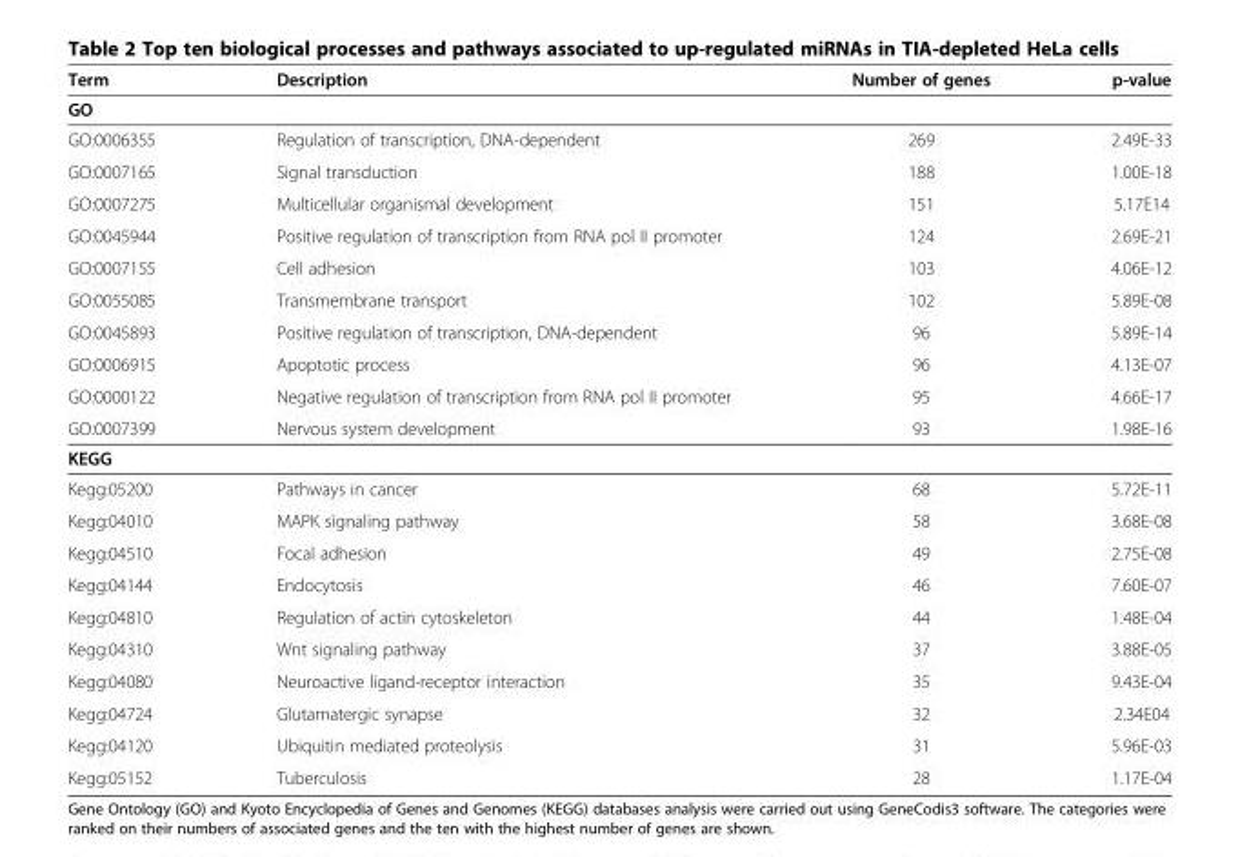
<table><thead><tr><td>Term</td><td>Description</td><td>Number of genes</td><td>p-value</td></tr></thead><tbody><tr><td colspan="4">GO</td></tr><tr><td>GO:0006355</td><td>Regulation of transcription, DNA-dependent</td><td>269</td><td>2.49E-33</td></tr><tr><td>GO:0007165</td><td>Signal transduction</td><td>188</td><td>1.00E-18</td></tr><tr><td>GO:0007275</td><td>Multicellular organismal development</td><td>151</td><td>5.17E14</td></tr><tr><td>GO:0045944</td><td>Positive regulation of transcription from RNA pol II promoter</td><td>124</td><td>2.69E-21</td></tr><tr><td>GO:0007155</td><td>Cell adhesion</td><td>103</td><td>4.06E-12</td></tr><tr><td>GO:0055085</td><td>Transmembrane transport</td><td>102</td><td>5.89E-08</td></tr><tr><td>GO:0045893</td><td>Positive regulation of transcription, DNA-dependent</td><td>96</td><td>5.89E-14</td></tr><tr><td>GO:0006915</td><td>Apoptotic process</td><td>96</td><td>4.13E-07</td></tr><tr><td>GO:0000122</td><td>Negative regulation of transcription from RNA pol II promoter</td><td>95</td><td>4.66E-17</td></tr><tr><td>GO:0007399</td><td>Nervous system development</td><td>93</td><td>1.98E-16</td></tr><tr><td colspan="4">KEGG</td></tr><tr><td>Kegg:05200</td><td>Pathways in cancer</td><td>68</td><td>5.72E-11</td></tr><tr><td>Kegg:04010</td><td>MAPK signaling pathway</td><td>58</td><td>3.68E-08</td></tr><tr><td>Kegg:04510</td><td>Focal adhesion</td><td>49</td><td>2.75E-08</td></tr><tr><td>Kegg:04144</td><td>Endocytosis</td><td>46</td><td>7.60E-07</td></tr><tr><td>Kegg:04810</td><td>Regulation of actin cytoskeleton</td><td>44</td><td>1.48E-04</td></tr><tr><td>Kegg:04310</td><td>Wnt signaling pathway</td><td>37</td><td>3.88E-05</td></tr><tr><td>Kegg:04080</td><td>Neuroactive ligand-receptor interaction</td><td>35</td><td>9.43E-04</td></tr><tr><td>Kegg:04724</td><td>Glutamatergic synapse</td><td>32</td><td>2.34E04</td></tr><tr><td>Kegg:04120</td><td>Ubiquitin mediated proteolysis</td><td>31</td><td>5.96E-03</td></tr><tr><td>Kegg:05152</td><td>Tuberculosis</td><td>28</td><td>1.17E-04</td></tr></tbody></table>